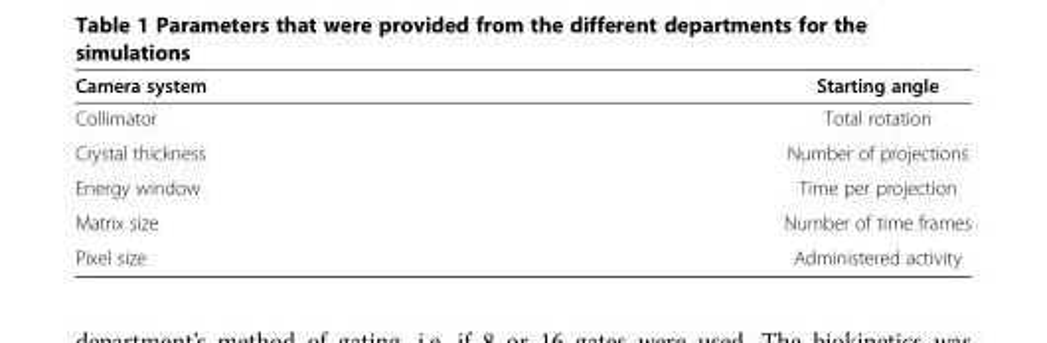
<table><thead><tr><td>Camera system</td><td>Starting angle</td></tr></thead><tbody><tr><td>Collimator</td><td>Total rotation</td></tr><tr><td>Crystal thickness</td><td>Number of projections</td></tr><tr><td>Energy window</td><td>Time per projection</td></tr><tr><td>Matrix size</td><td>Number of time frames</td></tr><tr><td>Pixel size</td><td>Administered activity</td></tr></tbody></table>